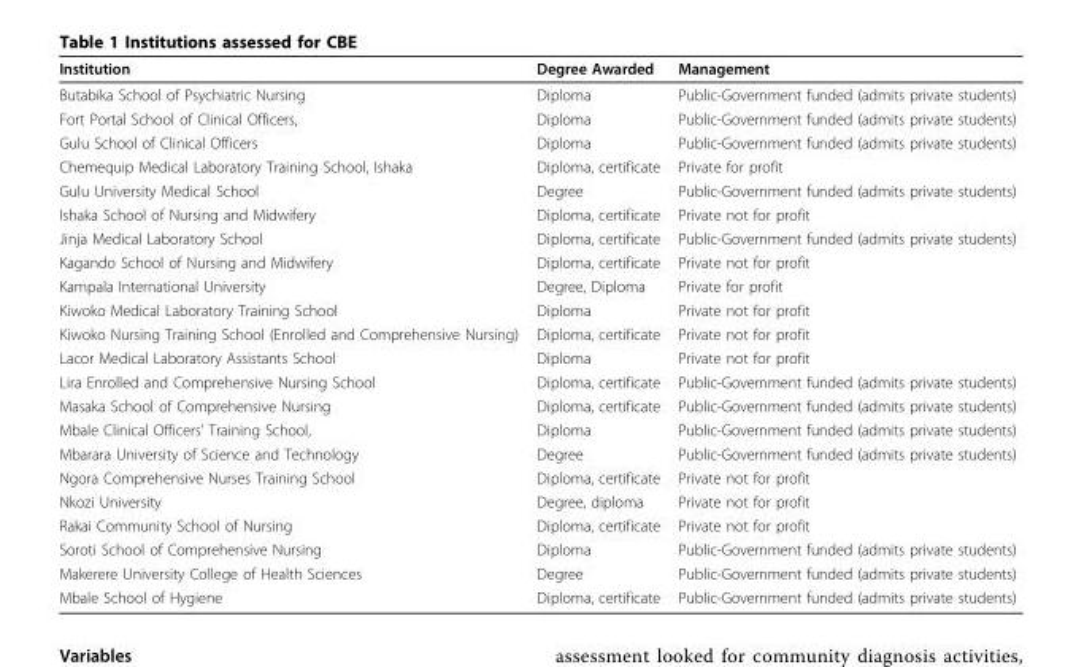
<table><thead><tr><td>Institution</td><td>Degree Awarded</td><td>Management</td></tr></thead><tbody><tr><td>Butabika School of Psychiatric Nursing</td><td>Diploma</td><td>Public-Government funded (admits private students)</td></tr><tr><td>Fort Portal School of Clinical Officers,</td><td>Diploma</td><td>Public-Government funded (admits private students)</td></tr><tr><td>Gulu School of Clinical Officers</td><td>Diploma</td><td>Public-Government funded (admits private students)</td></tr><tr><td>Chemequip Medical Laboratory Training School, Ishaka</td><td>Diploma, certificate</td><td>Private for profit</td></tr><tr><td>Gulu University Medical School</td><td>Degree</td><td>Public-Government funded (admits private students)</td></tr><tr><td>Ishaka School of Nursing and Midwifery</td><td>Diploma, certificate</td><td>Private not for profit</td></tr><tr><td>Jinja Medical Laboratory School</td><td>Diploma, certificate</td><td>Public-Government funded (admits private students)</td></tr><tr><td>Kagando School of Nursing and Midwifery</td><td>Diploma, certificate</td><td>Private not for profit</td></tr><tr><td>Kampala International University</td><td>Degree, Diploma</td><td>Private for profit</td></tr><tr><td>Kiwoko Medical Laboratory Training School</td><td>Diploma</td><td>Private not for profit</td></tr><tr><td>Kiwoko Nursing Training School (Enrolled and Comprehensive Nursing)</td><td>Diploma, certificate</td><td>Private not for profit</td></tr><tr><td>Lacor Medical Laboratory Assistants School</td><td>Diploma</td><td>Private not for profit</td></tr><tr><td>Lira Enrolled and Comprehensive Nursing School</td><td>Diploma, certificate</td><td>Public-Government funded (admits private students)</td></tr><tr><td>Masaka School of Comprehensive Nursing</td><td>Diploma, certificate</td><td>Public-Government funded (admits private students)</td></tr><tr><td>Mbale Clinical Officers’ Training School,</td><td>Diploma</td><td>Public-Government funded (admits private students)</td></tr><tr><td>Mbarara University of Science and Technology</td><td>Degree</td><td>Public-Government funded (admits private students)</td></tr><tr><td>Ngora Comprehensive Nurses Training School</td><td>Diploma, certificate</td><td>Private not for profit</td></tr><tr><td>Nkozi University</td><td>Degree, diploma</td><td>Private not for profit</td></tr><tr><td>Rakai Community School of Nursing</td><td>Diploma, certificate</td><td>Private not for profit</td></tr><tr><td>Soroti School of Comprehensive Nursing</td><td>Diploma</td><td>Public-Government funded (admits private students)</td></tr><tr><td>Makerere University College of Health Sciences</td><td>Degree</td><td>Public-Government funded (admits private students)</td></tr><tr><td>Mbale School of Hygiene</td><td>Diploma, certificate</td><td>Public-Government funded (admits private students)</td></tr></tbody></table>